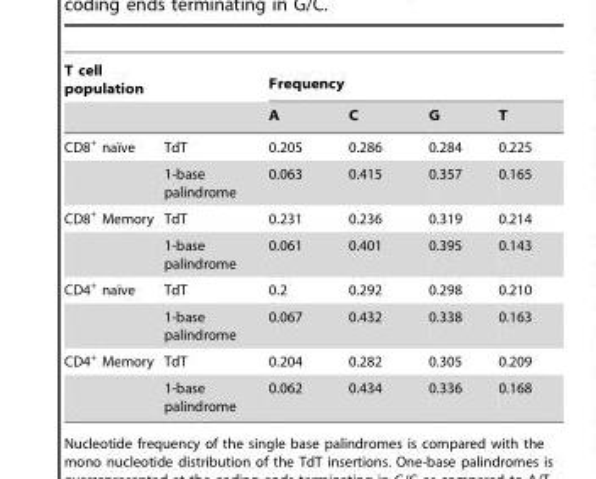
<table><thead><tr><td rowspan="2">T cell population</td><td rowspan="2"></td><td colspan="4">Frequency</td></tr><tr><td>A</td><td>C</td><td>G</td><td>T</td></tr></thead><tbody><tr><td rowspan="2">CD8+ naı¨ve</td><td>TdT</td><td>0.205</td><td>0.286</td><td>0.284</td><td>0.225</td></tr><tr><td>1-base palindrome</td><td>0.063</td><td>0.415</td><td>0.357</td><td>0.165</td></tr><tr><td rowspan="2">CD8<sup>+</sup> Memory</td><td>TdT</td><td>0.231</td><td>0.236</td><td>0.319</td><td>0.214</td></tr><tr><td>1-base palindrome</td><td>0.061</td><td>0.401</td><td>0.395</td><td>0.143</td></tr><tr><td rowspan="2">CD4+ naı¨ve</td><td>TdT</td><td>0.2</td><td>0.292</td><td>0.298</td><td>0.210</td></tr><tr><td>1-base palindrome</td><td>0.067</td><td>0.432</td><td>0.338</td><td>0.163</td></tr><tr><td rowspan="2">CD4<sup>+</sup> Memory</td><td>TdT</td><td>0.204</td><td>0.282</td><td>0.305</td><td>0.209</td></tr><tr><td>1-base palindrome</td><td>0.062</td><td>0.434</td><td>0.336</td><td>0.168</td></tr></tbody></table>